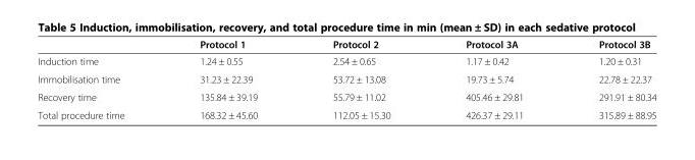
<table><thead><tr><td></td><td>Protocol 1</td><td>Protocol 2</td><td>Protocol 3A</td><td>Protocol 3B</td></tr></thead><tbody><tr><td>Induction time</td><td>1.24 ± 0.55</td><td>2.54 ± 0.65</td><td>1.17 ± 0.42</td><td>1.20 ± 0.31</td></tr><tr><td>Immobilisation time</td><td>31.23 ± 22.39</td><td>53.72 ± 13.08</td><td>19.73 ± 5.74</td><td>22.78 ± 22.37</td></tr><tr><td>Recovery time</td><td>135.84 ± 39.19</td><td>55.79 ± 11.02</td><td>405.46 ± 29.81</td><td>291.91 ± 80.34</td></tr><tr><td>Total procedure time</td><td>168.32 ± 45.60</td><td>112.05 ± 15.30</td><td>426.37 ± 29.11</td><td>315.89 ± 88.95</td></tr></tbody></table>